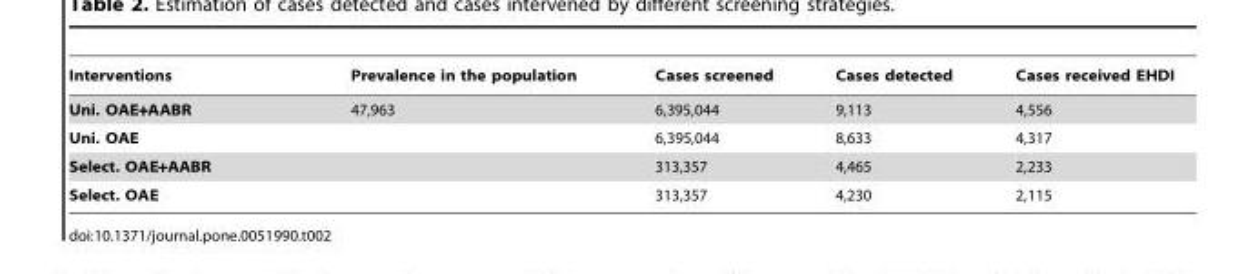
<table><thead><tr><td>Interventions</td><td>Prevalence in the population</td><td>Cases screened</td><td>Cases detected</td><td>Cases received EHDI</td></tr></thead><tbody><tr><td>Uni. OAE+AABR</td><td>47,963</td><td>6,395,044</td><td>9,113</td><td>4,556</td></tr><tr><td>Uni. OAE</td><td></td><td>6,395,044</td><td>8,633</td><td>4,317</td></tr><tr><td>Select. OAE+AABR</td><td></td><td>313,357</td><td>4,465</td><td>2,233</td></tr><tr><td>Select. OAE</td><td></td><td>313,357</td><td>4,230</td><td>2,115</td></tr></tbody></table>